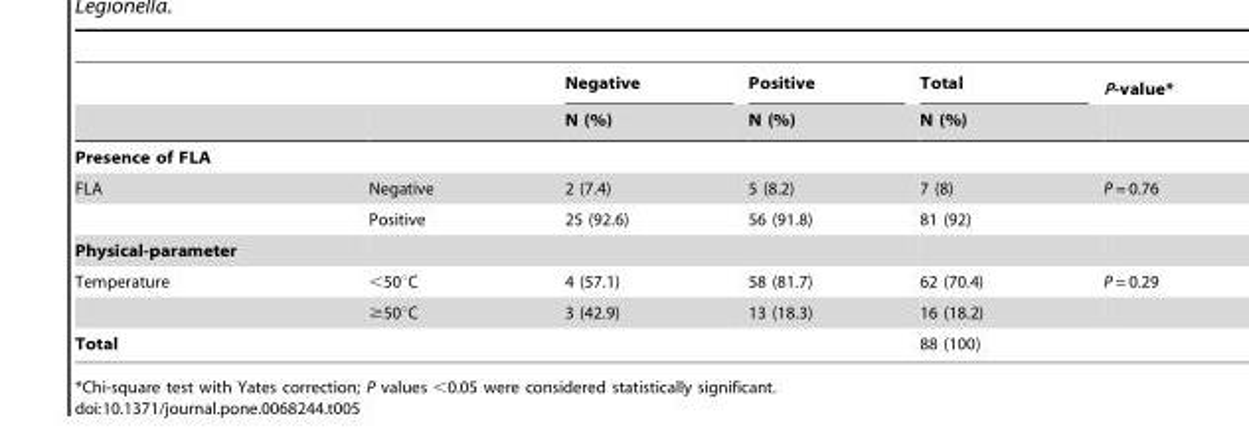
<table><thead><tr><td rowspan="2"></td><td rowspan="2"></td><td rowspan="2">Negative N (%)</td><td rowspan="2">Positive N (%)</td><td rowspan="2">Total N (%)</td><td rowspan="2">P-value*</td></tr><tr></tr></thead><tbody><tr><td colspan="6">Presence of FLA</td></tr><tr><td rowspan="2">FLA</td><td>Negative</td><td>2 (7.4)</td><td>5 (8.2)</td><td>7 (8)</td><td>P = 0.76</td></tr><tr><td>Positive</td><td>25 (92.6)</td><td>56 (91.8)</td><td>81 (92)</td><td></td></tr><tr><td colspan="6">Physical-parameter</td></tr><tr><td rowspan="2">Temperature</td><td>&lt;50°C</td><td>4 (57.1)</td><td>58 (81.7)</td><td>62 (70.4)</td><td>P = 0.29</td></tr><tr><td>≥50°C</td><td>3 (42.9)</td><td>13 (18.3)</td><td>16 (18.2)</td><td></td></tr><tr><td>Total</td><td></td><td></td><td></td><td>88 (100)</td><td></td></tr></tbody></table>